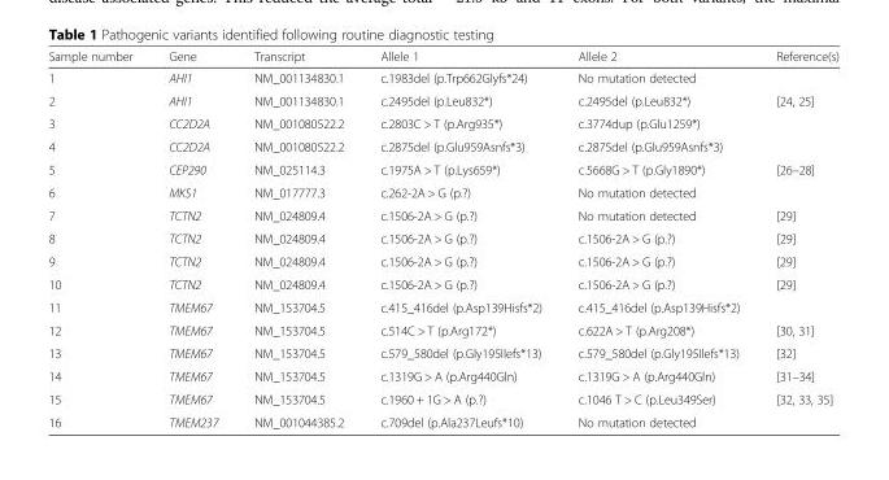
<table><thead><tr><td>Sample number</td><td>Gene</td><td>Transcript</td><td>Allele 1</td><td>Allele 2</td><td>Reference(s)</td></tr></thead><tbody><tr><td>1</td><td>AHI1</td><td>NM_001134830.1</td><td>c.1983del (p.Trp662Glyfs*24)</td><td>No mutation detected</td><td></td></tr><tr><td>2</td><td>AHI1</td><td>NM_001134830.1</td><td>c.2495del (p.Leu832*)</td><td>c.2495del (p.Leu832*)</td><td>[24, 25]</td></tr><tr><td>3</td><td>CC2D2A</td><td>NM_001080522.2</td><td>c.2803C &gt; T (p.Arg935*)</td><td>c.3774dup (p.Glu1259*)</td><td></td></tr><tr><td>4</td><td>CC2D2A</td><td>NM_001080522.2</td><td>c.2875del (p.Glu959Asnfs*3)</td><td>c.2875del (p.Glu959Asnfs*3)</td><td></td></tr><tr><td>5</td><td>CEP290</td><td>NM_025114.3</td><td>c.1975A &gt; T (p.Lys659*)</td><td>c.5668G &gt; T (p.Gly1890*)</td><td>[26–28]</td></tr><tr><td>6</td><td>MKS1</td><td>NM_017777.3</td><td>c.262-2A &gt; G (p.?)</td><td>No mutation detected</td><td></td></tr><tr><td>7</td><td>TCTN2</td><td>NM_024809.4</td><td>c.1506-2A &gt; G (p.?)</td><td>No mutation detected</td><td>[29]</td></tr><tr><td>8</td><td>TCTN2</td><td>NM_024809.4</td><td>c.1506-2A &gt; G (p.?)</td><td>c.1506-2A &gt; G (p.?)</td><td>[29]</td></tr><tr><td>9</td><td>TCTN2</td><td>NM_024809.4</td><td>c.1506-2A &gt; G (p.?)</td><td>c.1506-2A &gt; G (p.?)</td><td>[29]</td></tr><tr><td>10</td><td>TCTN2</td><td>NM_024809.4</td><td>c.1506-2A &gt; G (p.?)</td><td>c.1506-2A &gt; G (p.?)</td><td>[29]</td></tr><tr><td>11</td><td>TMEM67</td><td>NM_153704.5</td><td>c.415_416del (p.Asp139Hisfs*2)</td><td>c.415_416del (p.Asp139Hisfs*2)</td><td></td></tr><tr><td>12</td><td>TMEM67</td><td>NM_153704.5</td><td>c.514C &gt; T (p.Arg172*)</td><td>c.622A &gt; T (p.Arg208*)</td><td>[30, 31]</td></tr><tr><td>13</td><td>TMEM67</td><td>NM_153704.5</td><td>c.579_580del (p.Gly195Ilefs*13)</td><td>c.579_580del (p.Gly195Ilefs*13)</td><td>[32]</td></tr><tr><td>14</td><td>TMEM67</td><td>NM_153704.5</td><td>c.1319G &gt; A (p.Arg440Gln)</td><td>c.1319G &gt; A (p.Arg440Gln)</td><td>[31–34]</td></tr><tr><td>15</td><td>TMEM67</td><td>NM_153704.5</td><td>c.1960 + 1G &gt; A (p.?)</td><td>c.1046 T &gt; C (p.Leu349Ser)</td><td>[32, 33, 35]</td></tr><tr><td>16</td><td>TMEM237</td><td>NM_001044385.2</td><td>c.709del (p.Ala237Leufs*10)</td><td>No mutation detected</td><td></td></tr></tbody></table>